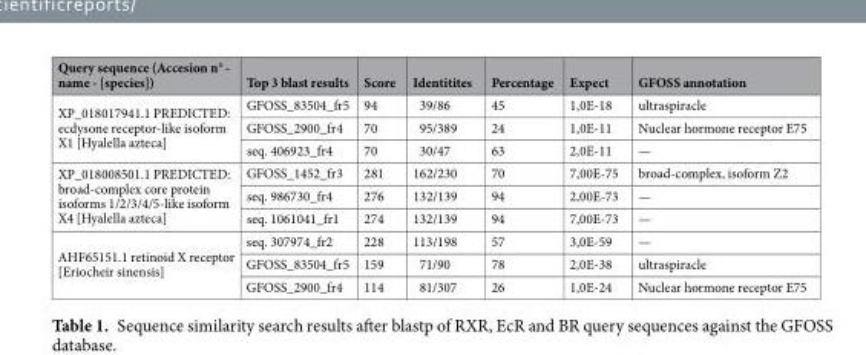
<table><thead><tr><td>Query sequence (Accesion n° - name - [species])</td><td>Top 3 blast results</td><td>Score</td><td>Identitites</td><td>Percentage</td><td>Expect</td><td>GFOSS annotation</td></tr></thead><tbody><tr><td rowspan="3">XP_018017941.1 PREDICTED: ecdysone receptor-like isoform X1 [Hyalella azteca]</td><td>GFOSS_83504_fr5</td><td>94</td><td>39/86</td><td>45</td><td>1,0E-18</td><td>ultraspiracle</td></tr><tr><td>GFOSS_2900_fr4</td><td>70</td><td>95/389</td><td>24</td><td>1,0E-11</td><td>Nuclear hormone receptor E75</td></tr><tr><td>seq. 406923_fr4</td><td>70</td><td>30/47</td><td>63</td><td>2,0E-11</td><td>—</td></tr><tr><td rowspan="3">XP_018008501.1 PREDICTED: broad-complex core protein isoforms 1/2/3/4/5-like isoform X4 [Hyalella azteca]</td><td>GFOSS_1452_fr3</td><td>281</td><td>162/230</td><td>70</td><td>7,00E-75</td><td>broad-complex, isoform Z2</td></tr><tr><td>seq. 986730_fr4</td><td>276</td><td>132/139</td><td>94</td><td>2,00E-73</td><td>—</td></tr><tr><td>seq. 1061041_fr1</td><td>274</td><td>132/139</td><td>94</td><td>7,00E-73</td><td>—</td></tr><tr><td rowspan="3">AHF65151.1 retinoid X receptor [Eriocheir sinensis]</td><td>seq. 307974_fr2</td><td>228</td><td>113/198</td><td>57</td><td>3,0E-59</td><td>—</td></tr><tr><td>GFOSS_83504_fr5</td><td>159</td><td>71/90</td><td>78</td><td>2,0E-38</td><td>ultraspiracle</td></tr><tr><td>GFOSS_2900_fr4</td><td>114</td><td>81/307</td><td>26</td><td>1,0E-24</td><td>Nuclear hormone receptor E75</td></tr></tbody></table>